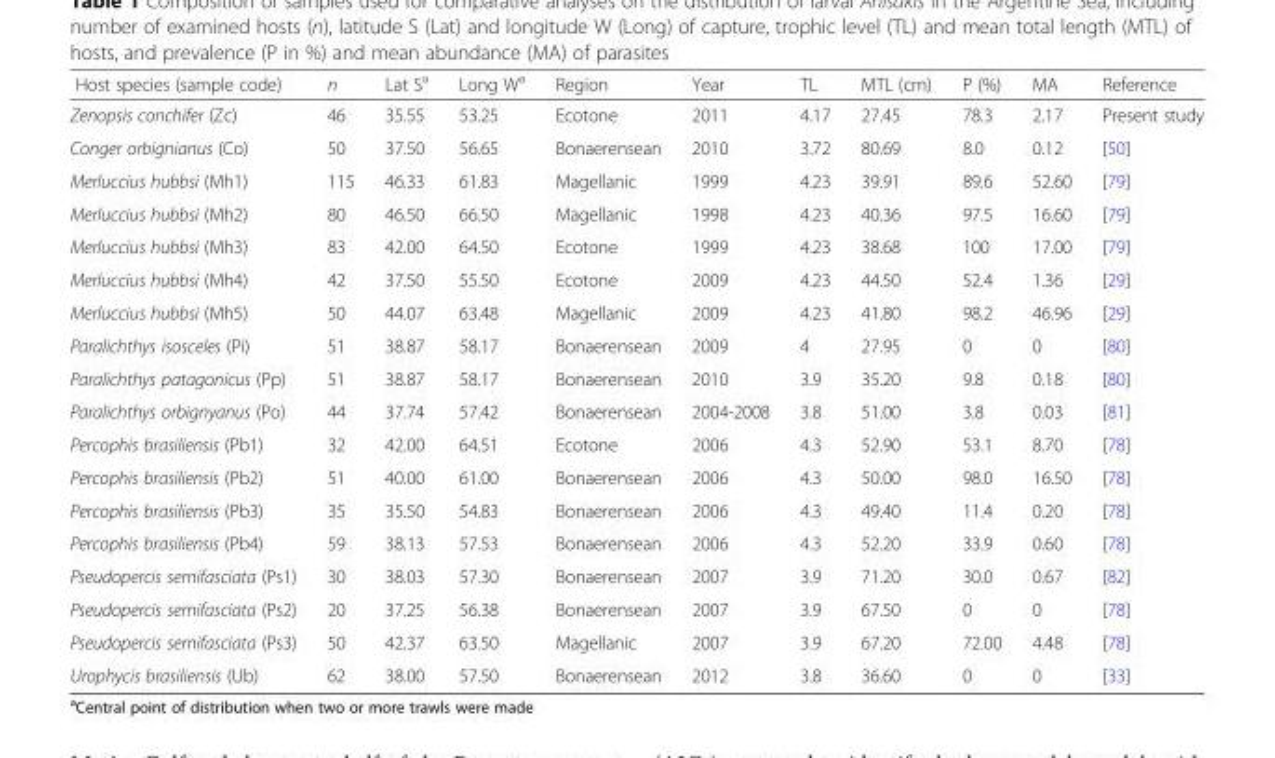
<table><thead><tr><td>Host species (sample code)</td><td>n</td><td>Lat S<sup>a</sup></td><td>Long W<sup>a</sup></td><td>Region</td><td>Year</td><td>TL</td><td>MTL (cm)</td><td>P (%)</td><td>MA</td><td>Reference</td></tr></thead><tbody><tr><td>Zenopsis conchifer (Zc)</td><td>46</td><td>35.55</td><td>53.25</td><td>Ecotone</td><td>2011</td><td>4.17</td><td>27.45</td><td>78.3</td><td>2.17</td><td>Present study</td></tr><tr><td>Conger orbignianus (Co)</td><td>50</td><td>37.50</td><td>56.65</td><td>Bonaerensean</td><td>2010</td><td>3.72</td><td>80.69</td><td>8.0</td><td>0.12</td><td>[50]</td></tr><tr><td>Merluccius hubbsi (Mh1)</td><td>115</td><td>46.33</td><td>61.83</td><td>Magellanic</td><td>1999</td><td>4.23</td><td>39.91</td><td>89.6</td><td>52.60</td><td>[79]</td></tr><tr><td>Merluccius hubbsi (Mh2)</td><td>80</td><td>46.50</td><td>66.50</td><td>Magellanic</td><td>1998</td><td>4.23</td><td>40.36</td><td>97.5</td><td>16.60</td><td>[79]</td></tr><tr><td>Merluccius hubbsi (Mh3)</td><td>83</td><td>42.00</td><td>64.50</td><td>Ecotone</td><td>1999</td><td>4.23</td><td>38.68</td><td>100</td><td>17.00</td><td>[79]</td></tr><tr><td>Merluccius hubbsi (Mh4)</td><td>42</td><td>37.50</td><td>55.50</td><td>Ecotone</td><td>2009</td><td>4.23</td><td>44.50</td><td>52.4</td><td>1.36</td><td>[29]</td></tr><tr><td>Merluccius hubbsi (Mh5)</td><td>50</td><td>44.07</td><td>63.48</td><td>Magellanic</td><td>2009</td><td>4.23</td><td>41.80</td><td>98.2</td><td>46.96</td><td>[29]</td></tr><tr><td>Paralichthys isosceles (Pi)</td><td>51</td><td>38.87</td><td>58.17</td><td>Bonaerensean</td><td>2009</td><td>4</td><td>27.95</td><td>0</td><td>0</td><td>[80]</td></tr><tr><td>Paralichthys patagonicus (Pp)</td><td>51</td><td>38.87</td><td>58.17</td><td>Bonaerensean</td><td>2010</td><td>3.9</td><td>35.20</td><td>9.8</td><td>0.18</td><td>[80]</td></tr><tr><td>Paralichthys orbignyanus (Po)</td><td>44</td><td>37.74</td><td>57.42</td><td>Bonaerensean</td><td>2004-2008</td><td>3.8</td><td>51.00</td><td>3.8</td><td>0.03</td><td>[81]</td></tr><tr><td>Percophis brasiliensis (Pb1)</td><td>32</td><td>42.00</td><td>64.51</td><td>Ecotone</td><td>2006</td><td>4.3</td><td>52.90</td><td>53.1</td><td>8.70</td><td>[78]</td></tr><tr><td>Percophis brasiliensis (Pb2)</td><td>51</td><td>40.00</td><td>61.00</td><td>Bonaerensean</td><td>2006</td><td>4.3</td><td>50.00</td><td>98.0</td><td>16.50</td><td>[78]</td></tr><tr><td>Percophis brasiliensis (Pb3)</td><td>35</td><td>35.50</td><td>54.83</td><td>Bonaerensean</td><td>2006</td><td>4.3</td><td>49.40</td><td>11.4</td><td>0.20</td><td>[78]</td></tr><tr><td>Percophis brasiliensis (Pb4)</td><td>59</td><td>38.13</td><td>57.53</td><td>Bonaerensean</td><td>2006</td><td>4.3</td><td>52.20</td><td>33.9</td><td>0.60</td><td>[78]</td></tr><tr><td>Pseudopercis semifasciata (Ps1)</td><td>30</td><td>38.03</td><td>57.30</td><td>Bonaerensean</td><td>2007</td><td>3.9</td><td>71.20</td><td>30.0</td><td>0.67</td><td>[82]</td></tr><tr><td>Pseudopercis semifasciata (Ps2)</td><td>20</td><td>37.25</td><td>56.38</td><td>Bonaerensean</td><td>2007</td><td>3.9</td><td>67.50</td><td>0</td><td>0</td><td>[78]</td></tr><tr><td>Pseudopercis semifasciata (Ps3)</td><td>50</td><td>42.37</td><td>63.50</td><td>Magellanic</td><td>2007</td><td>3.9</td><td>67.20</td><td>72.00</td><td>4.48</td><td>[78]</td></tr><tr><td>Urophycis brasiliensis (Ub)</td><td>62</td><td>38.00</td><td>57.50</td><td>Bonaerensean</td><td>2012</td><td>3.8</td><td>36.60</td><td>0</td><td>0</td><td>[33]</td></tr></tbody></table>